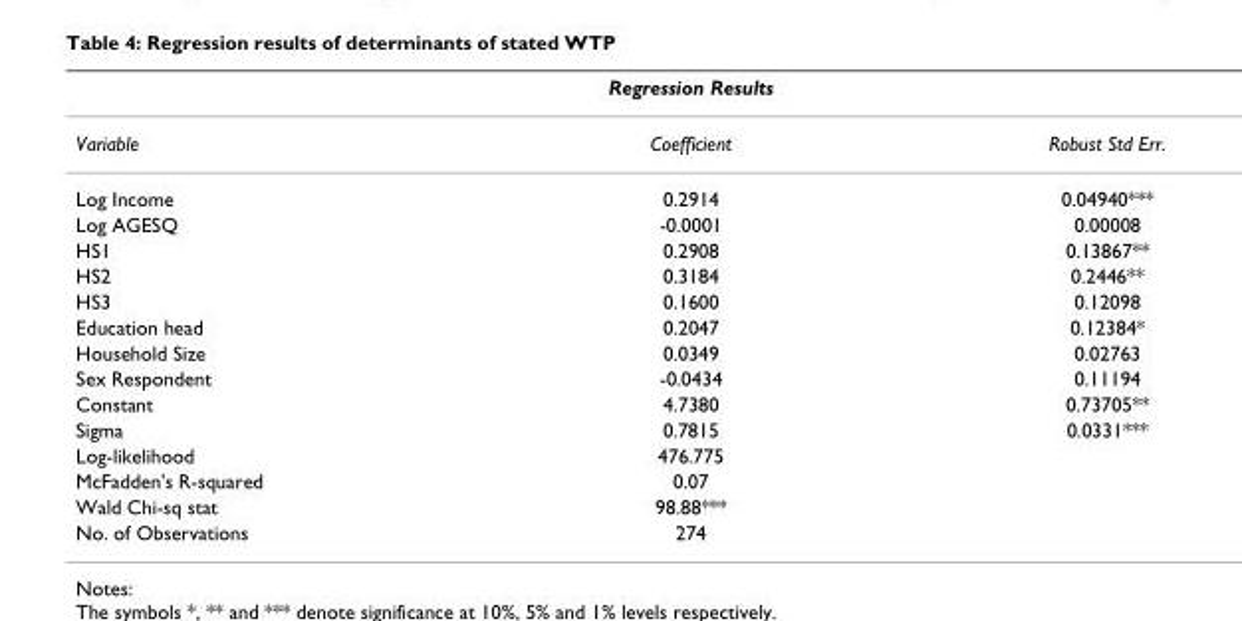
<table><thead><tr><td></td><td>Regression Results</td><td></td></tr></thead><tbody><tr><td>Variable</td><td>Coefficient</td><td>Robust Std Err.</td></tr><tr><td>Log Income</td><td>0.2914</td><td>0.04940***</td></tr><tr><td>Log AGESQ</td><td>-0.0001</td><td>0.00008</td></tr><tr><td>HS1</td><td>0.2908</td><td>0.13867**</td></tr><tr><td>HS2</td><td>0.3184</td><td>0.2446**</td></tr><tr><td>HS3</td><td>0.1600</td><td>0.12098</td></tr><tr><td>Education head</td><td>0.2047</td><td>0.12384*</td></tr><tr><td>Household Size</td><td>0.0349</td><td>0.02763</td></tr><tr><td>Sex Respondent</td><td>-0.0434</td><td>0.11194</td></tr><tr><td>Constant</td><td>4.7380</td><td>0.73705**</td></tr><tr><td>Sigma</td><td>0.7815</td><td>0.0331***</td></tr><tr><td>Log-likelihood</td><td>476.775</td><td></td></tr><tr><td>McFadden&#x27;s R-squared</td><td>0.07</td><td></td></tr><tr><td>Wald Chi-sq stat</td><td>98.88***</td><td></td></tr><tr><td>No. of Observations</td><td>274</td><td></td></tr></tbody></table>